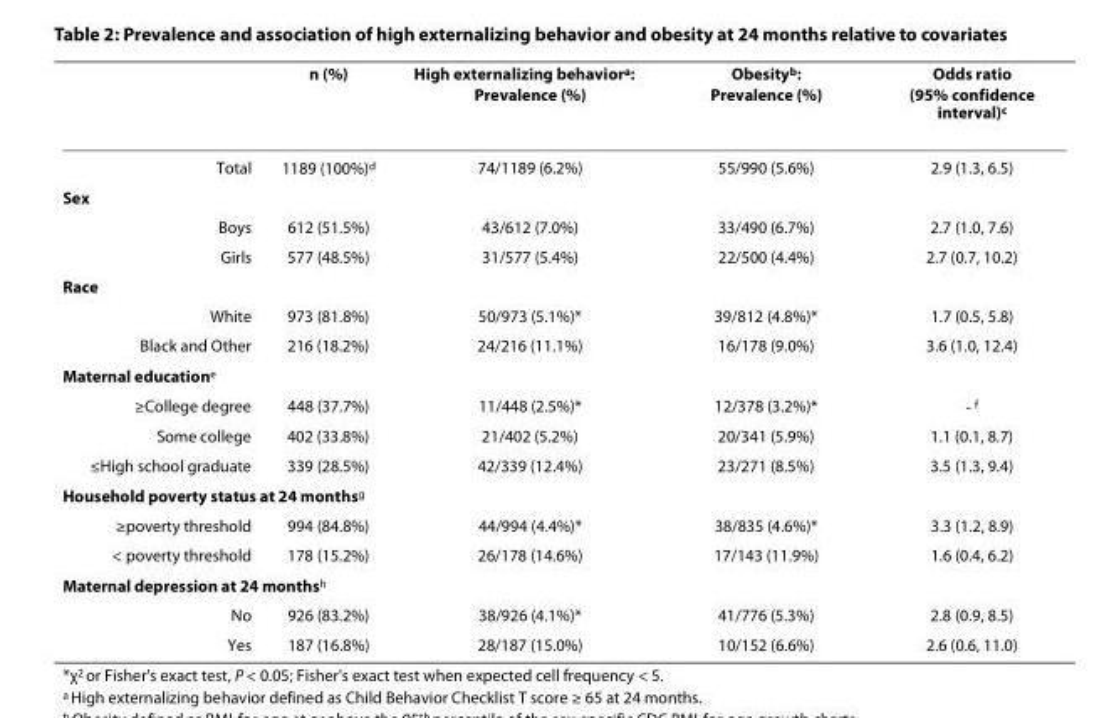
<table><thead><tr><td></td><td>n (%)</td><td>High externalizing behavior<sup>a</sup>: Prevalence (%)</td><td>Obesity<sup>b</sup>: Prevalence (%)</td><td>Odds ratio (95% confidence interval)<sup>c</sup></td></tr></thead><tbody><tr><td>Total</td><td>1189 (100%)<sup>d</sup></td><td>74/1189 (6.2%)</td><td>55/990 (5.6%)</td><td>2.9 (1.3, 6.5)</td></tr><tr><td colspan="5">Sex</td></tr><tr><td>Boys</td><td>612 (51.5%)</td><td>43/612 (7.0%)</td><td>33/490 (6.7%)</td><td>2.7 (1.0, 7.6)</td></tr><tr><td>Girls</td><td>577 (48.5%)</td><td>31/577 (5.4%)</td><td>22/500 (4.4%)</td><td>2.7 (0.7, 10.2)</td></tr><tr><td colspan="5">Race</td></tr><tr><td>White</td><td>973 (81.8%)</td><td>50/973 (5.1%)*</td><td>39/812 (4.8%)*</td><td>1.7 (0.5, 5.8)</td></tr><tr><td>Black and Other</td><td>216 (18.2%)</td><td>24/216 (11.1%)</td><td>16/178 (9.0%)</td><td>3.6 (1.0, 12.4)</td></tr><tr><td colspan="5">Maternal education<sup>e</sup></td></tr><tr><td>≥College degree</td><td>448 (37.7%)</td><td>11/448 (2.5%)*</td><td>12/378 (3.2%)*</td><td>- <sup>f</sup></td></tr><tr><td>Some college</td><td>402 (33.8%)</td><td>21/402 (5.2%)</td><td>20/341 (5.9%)</td><td>1.1 (0.1, 8.7)</td></tr><tr><td>≤High school graduate</td><td>339 (28.5%)</td><td>42/339 (12.4%)</td><td>23/271 (8.5%)</td><td>3.5 (1.3, 9.4)</td></tr><tr><td colspan="5">Household poverty status at 24 months<sup>g</sup></td></tr><tr><td>≥poverty threshold</td><td>994 (84.8%)</td><td>44/994 (4.4%)*</td><td>38/835 (4.6%)*</td><td>3.3 (1.2, 8.9)</td></tr><tr><td>&lt; poverty threshold</td><td>178 (15.2%)</td><td>26/178 (14.6%)</td><td>17/143 (11.9%)</td><td>1.6 (0.4, 6.2)</td></tr><tr><td colspan="5">Maternal depression at 24 months<sup>h</sup></td></tr><tr><td>No</td><td>926 (83.2%)</td><td>38/926 (4.1%)*</td><td>41/776 (5.3%)</td><td>2.8 (0.9, 8.5)</td></tr><tr><td>Yes</td><td>187 (16.8%)</td><td>28/187 (15.0%)</td><td>10/152 (6.6%)</td><td>2.6 (0.6, 11.0)</td></tr></tbody></table>